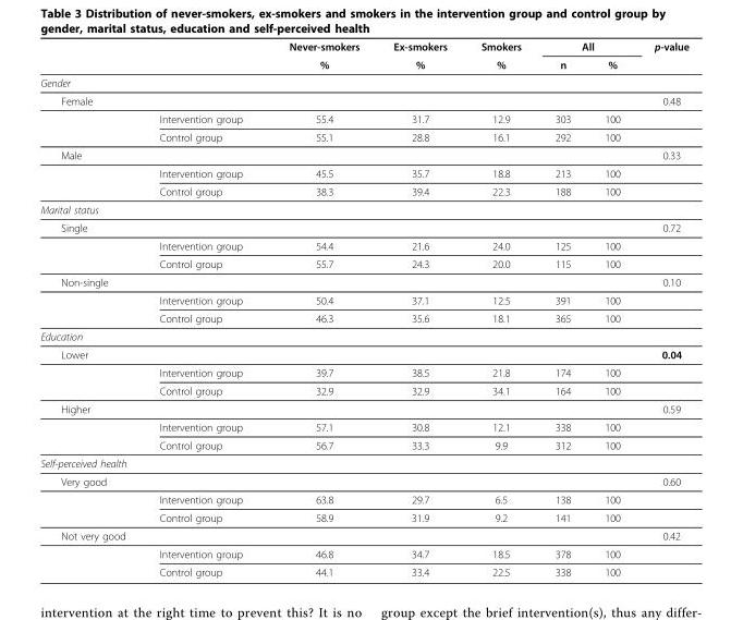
<table><thead><tr><td rowspan="2"></td><td rowspan="2"></td><td rowspan="2">Never-smokers %</td><td rowspan="2">Ex-smokers %</td><td rowspan="2">Smokers %</td><td colspan="2">All</td><td rowspan="2">p-value</td></tr><tr><td>n</td><td>%</td></tr></thead><tbody><tr><td colspan="8">Gender</td></tr><tr><td rowspan="3">Female</td><td></td><td></td><td></td><td></td><td></td><td></td><td>0.48</td></tr><tr><td>Intervention group</td><td>55.4</td><td>31.7</td><td>12.9</td><td>303</td><td>100</td><td></td></tr><tr><td>Control group</td><td>55.1</td><td>28.8</td><td>16.1</td><td>292</td><td>100</td><td></td></tr><tr><td rowspan="3">Male</td><td></td><td></td><td></td><td></td><td></td><td></td><td>0.33</td></tr><tr><td>Intervention group</td><td>45.5</td><td>35.7</td><td>18.8</td><td>213</td><td>100</td><td></td></tr><tr><td>Control group</td><td>38.3</td><td>39.4</td><td>22.3</td><td>188</td><td>100</td><td></td></tr><tr><td colspan="8">Marital status</td></tr><tr><td rowspan="3">Single</td><td></td><td></td><td></td><td></td><td></td><td></td><td>0.72</td></tr><tr><td>Intervention group</td><td>54.4</td><td>21.6</td><td>24.0</td><td>125</td><td>100</td><td></td></tr><tr><td>Control group</td><td>55.7</td><td>24.3</td><td>20.0</td><td>115</td><td>100</td><td></td></tr><tr><td rowspan="3">Non-single</td><td></td><td></td><td></td><td></td><td></td><td></td><td>0.10</td></tr><tr><td>Intervention group</td><td>50.4</td><td>37.1</td><td>12.5</td><td>391</td><td>100</td><td></td></tr><tr><td>Control group</td><td>46.3</td><td>35.6</td><td>18.1</td><td>365</td><td>100</td><td></td></tr><tr><td colspan="8">Education</td></tr><tr><td rowspan="3">Lower</td><td></td><td></td><td></td><td></td><td></td><td></td><td>0.04</td></tr><tr><td>Intervention group</td><td>39.7</td><td>38.5</td><td>21.8</td><td>174</td><td>100</td><td></td></tr><tr><td>Control group</td><td>32.9</td><td>32.9</td><td>34.1</td><td>164</td><td>100</td><td></td></tr><tr><td rowspan="3">Higher</td><td></td><td></td><td></td><td></td><td></td><td></td><td>0.59</td></tr><tr><td>Intervention group</td><td>57.1</td><td>30.8</td><td>12.1</td><td>338</td><td>100</td><td></td></tr><tr><td>Control group</td><td>56.7</td><td>33.3</td><td>9.9</td><td>312</td><td>100</td><td></td></tr><tr><td colspan="8">Self-perceived health</td></tr><tr><td rowspan="3">Very good</td><td></td><td></td><td></td><td></td><td></td><td></td><td>0.60</td></tr><tr><td>Intervention group</td><td>63.8</td><td>29.7</td><td>6.5</td><td>138</td><td>100</td><td></td></tr><tr><td>Control group</td><td>58.9</td><td>31.9</td><td>9.2</td><td>141</td><td>100</td><td></td></tr><tr><td rowspan="3">Not very good</td><td></td><td></td><td></td><td></td><td></td><td></td><td>0.42</td></tr><tr><td>Intervention group</td><td>46.8</td><td>34.7</td><td>18.5</td><td>378</td><td>100</td><td></td></tr><tr><td>Control group</td><td>44.1</td><td>33.4</td><td>22.5</td><td>338</td><td>100</td><td></td></tr></tbody></table>